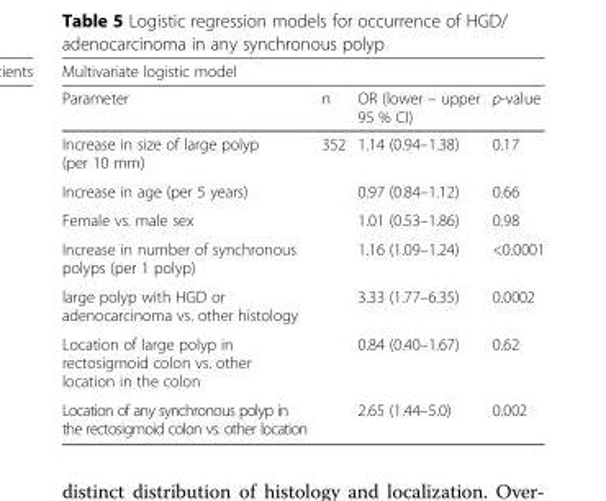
<table><thead><tr><td colspan="4">Multivariate logistic model</td></tr><tr><td>Parameter</td><td>n</td><td>OR (lower – upper 95 % CI)</td><td>p-value</td></tr></thead><tbody><tr><td>Increase in size of large polyp (per 10 mm)</td><td rowspan="6">352</td><td>1.14 (0.94–1.38)</td><td>0.17</td></tr><tr><td>Increase in age (per 5 years)</td><td>0.97 (0.84–1.12)</td><td>0.66</td></tr><tr><td>Female vs. male sex</td><td>1.01 (0.53–1.86)</td><td>0.98</td></tr><tr><td>Increase in number of synchronous polyps (per 1 polyp)</td><td>1.16 (1.09–1.24)</td><td>&lt;0.0001</td></tr><tr><td>large polyp with HGD or adenocarcinoma vs. other histology</td><td>3.33 (1.77–6.35)</td><td>0.0002</td></tr><tr><td>Location of large polyp in rectosigmoid colon vs. other location in the colon</td><td>0.84 (0.40–1.67)</td><td>0.62</td></tr><tr><td>Location of any synchronous polyp in the rectosigmoid colon vs. other location</td><td></td><td>2.65 (1.44–5.0)</td><td>0.002</td></tr></tbody></table>